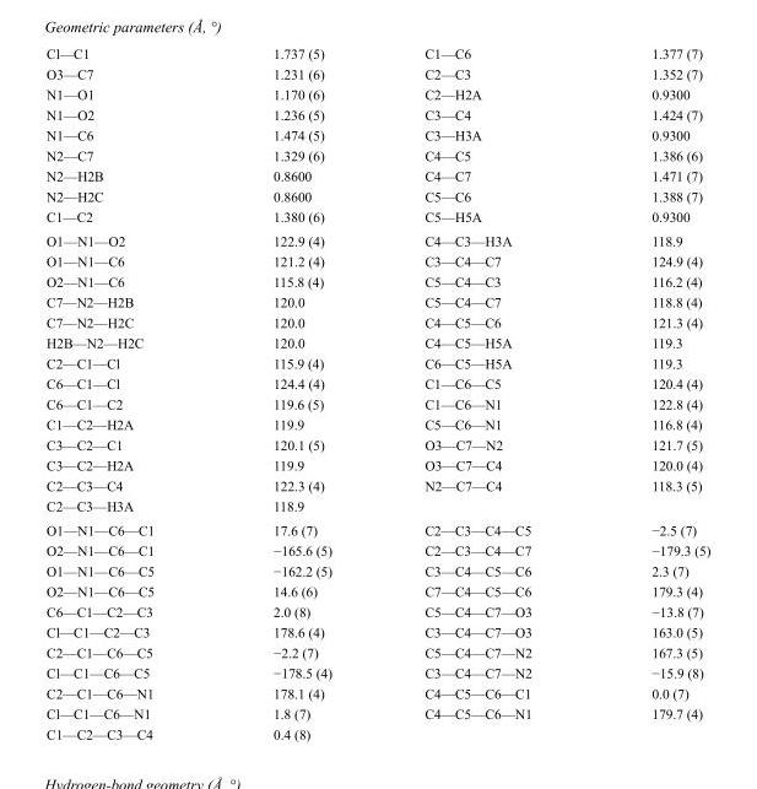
<table><tbody><tr><td>Cl—C1</td><td>1.737 (5)</td><td>C1—C6</td><td>1.377 (7)</td></tr><tr><td>O3—C7</td><td>1.231 (6)</td><td>C2—C3</td><td>1.352 (7)</td></tr><tr><td>N1—O1</td><td>1.170 (6)</td><td>C2—H2A</td><td>0.9300</td></tr><tr><td>N1—O2</td><td>1.236 (5)</td><td>C3—C4</td><td>1.424 (7)</td></tr><tr><td>N1—C6</td><td>1.474 (5)</td><td>C3—H3A</td><td>0.9300</td></tr><tr><td>N2—C7</td><td>1.329 (6)</td><td>C4—C5</td><td>1.386 (6)</td></tr><tr><td>N2—H2B</td><td>0.8600</td><td>C4—C7</td><td>1.471 (7)</td></tr><tr><td>N2—H2C</td><td>0.8600</td><td>C5—C6</td><td>1.388 (7)</td></tr><tr><td>C1—C2</td><td>1.380 (6)</td><td>C5—H5A</td><td>0.9300</td></tr><tr><td>O1—N1—O2</td><td>122.9 (4)</td><td>C4—C3—H3A</td><td>118.9</td></tr><tr><td>O1—N1—C6</td><td>121.2 (4)</td><td>C3—C4—C7</td><td>124.9 (4)</td></tr><tr><td>O2—N1—C6</td><td>115.8 (4)</td><td>C5—C4—C3</td><td>116.2 (4)</td></tr><tr><td>C7—N2—H2B</td><td>120.0</td><td>C5—C4—C7</td><td>118.8 (4)</td></tr><tr><td>C7—N2—H2C</td><td>120.0</td><td>C4—C5—C6</td><td>121.3 (4)</td></tr><tr><td>H2B—N2—H2C</td><td>120.0</td><td>C4—C5—H5A</td><td>119.3</td></tr><tr><td>C2—C1—Cl</td><td>115.9 (4)</td><td>C6—C5—H5A</td><td>119.3</td></tr><tr><td>C6—C1—Cl</td><td>124.4 (4)</td><td>C1—C6—C5</td><td>120.4 (4)</td></tr><tr><td>C6—C1—C2</td><td>119.6 (5)</td><td>C1—C6—N1</td><td>122.8 (4)</td></tr><tr><td>C1—C2—H2A</td><td>119.9</td><td>C5—C6—N1</td><td>116.8 (4)</td></tr><tr><td>C3—C2—C1</td><td>120.1 (5)</td><td>O3—C7—N2</td><td>121.7 (5)</td></tr><tr><td>C3—C2—H2A</td><td>119.9</td><td>O3—C7—C4</td><td>120.0 (4)</td></tr><tr><td>C2—C3—C4</td><td>122.3 (4)</td><td>N2—C7—C4</td><td>118.3 (5)</td></tr><tr><td>C2—C3—H3A</td><td>118.9</td><td></td><td></td></tr><tr><td>O1—N1—C6—C1</td><td>17.6 (7)</td><td>C2—C3—C4—C5</td><td>−2.5 (7)</td></tr><tr><td>O2—N1—C6—C1</td><td>−165.6 (5)</td><td>C2—C3—C4—C7</td><td>−179.3 (5)</td></tr><tr><td>O1—N1—C6—C5</td><td>−162.2 (5)</td><td>C3—C4—C5—C6</td><td>2.3 (7)</td></tr><tr><td>O2—N1—C6—C5</td><td>14.6 (6)</td><td>C7—C4—C5—C6</td><td>179.3 (4)</td></tr><tr><td>C6—C1—C2—C3</td><td>2.0 (8)</td><td>C5—C4—C7—O3</td><td>−13.8 (7)</td></tr><tr><td>Cl—C1—C2—C3</td><td>178.6 (4)</td><td>C3—C4—C7—O3</td><td>163.0 (5)</td></tr><tr><td>C2—C1—C6—C5</td><td>−2.2 (7)</td><td>C5—C4—C7—N2</td><td>167.3 (5)</td></tr><tr><td>Cl—C1—C6—C5</td><td>−178.5 (4)</td><td>C3—C4—C7—N2</td><td>−15.9 (8)</td></tr><tr><td>C2—C1—C6—N1</td><td>178.1 (4)</td><td>C4—C5—C6—C1</td><td>0.0 (7)</td></tr><tr><td>Cl—C1—C6—N1</td><td>1.8 (7)</td><td>C4—C5—C6—N1</td><td>179.7 (4)</td></tr><tr><td>C1—C2—C3—C4</td><td>0.4 (8)</td><td></td><td></td></tr></tbody></table>